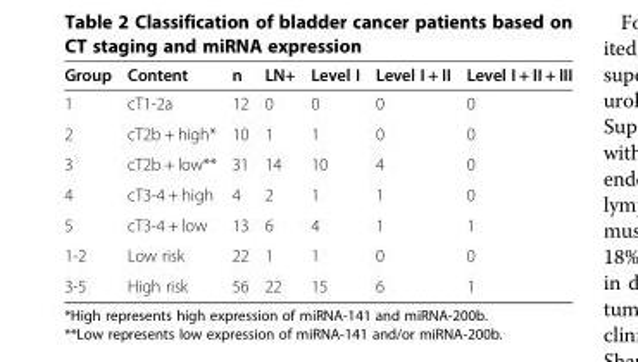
<table><thead><tr><td>Group</td><td>Content</td><td>n</td><td>LN+</td><td>Level I</td><td>Level I + II</td><td>Level I + II + III</td></tr></thead><tbody><tr><td>1</td><td>cT1-2a</td><td>12</td><td>0</td><td>0</td><td>0</td><td>0</td></tr><tr><td>2</td><td>cT2b + high*</td><td>10</td><td>1</td><td>1</td><td>0</td><td>0</td></tr><tr><td>3</td><td>cT2b + low**</td><td>31</td><td>14</td><td>10</td><td>4</td><td>0</td></tr><tr><td>4</td><td>cT3-4 + high</td><td>4</td><td>2</td><td>1</td><td>1</td><td>0</td></tr><tr><td>5</td><td>cT3-4 + low</td><td>13</td><td>6</td><td>4</td><td>1</td><td>1</td></tr><tr><td>1-2</td><td>Low risk</td><td>22</td><td>1</td><td>1</td><td>0</td><td>0</td></tr><tr><td>3-5</td><td>High risk</td><td>56</td><td>22</td><td>15</td><td>6</td><td>1</td></tr></tbody></table>